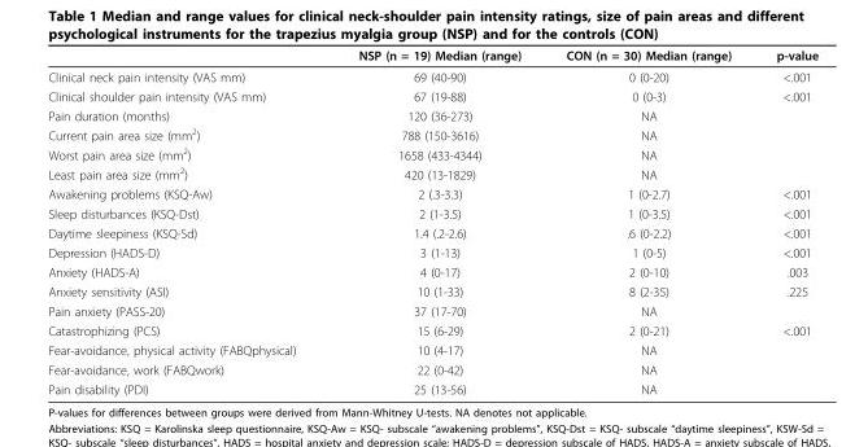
<table><thead><tr><td></td><td>NSP (n = 19) Median (range)</td><td>CON (n = 30) Median (range)</td><td>p-value</td></tr></thead><tbody><tr><td>Clinical neck pain intensity (VAS mm)</td><td>69 (40-90)</td><td>0 (0-20)</td><td>&lt;.001</td></tr><tr><td>Clinical shoulder pain intensity (VAS mm)</td><td>67 (19-88)</td><td>0 (0-3)</td><td>&lt;.001</td></tr><tr><td>Pain duration (months)</td><td>120 (36-273)</td><td>NA</td><td></td></tr><tr><td>Current pain area size (mm<sup>2</sup>)</td><td>788 (150-3616)</td><td>NA</td><td></td></tr><tr><td>Worst pain area size (mm<sup>2</sup>)</td><td>1658 (433-4344)</td><td>NA</td><td></td></tr><tr><td>Least pain area size (mm<sup>2</sup>)</td><td>420 (13-1829)</td><td>NA</td><td></td></tr><tr><td>Awakening problems (KSQ-Aw)</td><td>2 (.3-3.3)</td><td>1 (0-2.7)</td><td>&lt;.001</td></tr><tr><td>Sleep disturbances (KSQ-Dst)</td><td>2 (1-3.5)</td><td>1 (0-3.5)</td><td>&lt;.001</td></tr><tr><td>Daytime sleepiness (KSQ-Sd)</td><td>1.4 (.2-2.6)</td><td>.6 (0-2.2)</td><td>&lt;.001</td></tr><tr><td>Depression (HADS-D)</td><td>3 (1-13)</td><td>1 (0-5)</td><td>&lt;.001</td></tr><tr><td>Anxiety (HADS-A)</td><td>4 (0-17)</td><td>2 (0-10)</td><td>.003</td></tr><tr><td>Anxiety sensitivity (ASI)</td><td>10 (1-33)</td><td>8 (2-35)</td><td>.225</td></tr><tr><td>Pain anxiety (PASS-20)</td><td>37 (17-70)</td><td>NA</td><td></td></tr><tr><td>Catastrophizing (PCS)</td><td>15 (6-29)</td><td>2 (0-21)</td><td>&lt;.001</td></tr><tr><td>Fear-avoidance, physical activity (FABQphysical)</td><td>10 (4-17)</td><td>NA</td><td></td></tr><tr><td>Fear-avoidance, work (FABQwork)</td><td>22 (0-42)</td><td>NA</td><td></td></tr><tr><td>Pain disability (PDI)</td><td>25 (13-56)</td><td>NA</td><td></td></tr></tbody></table>